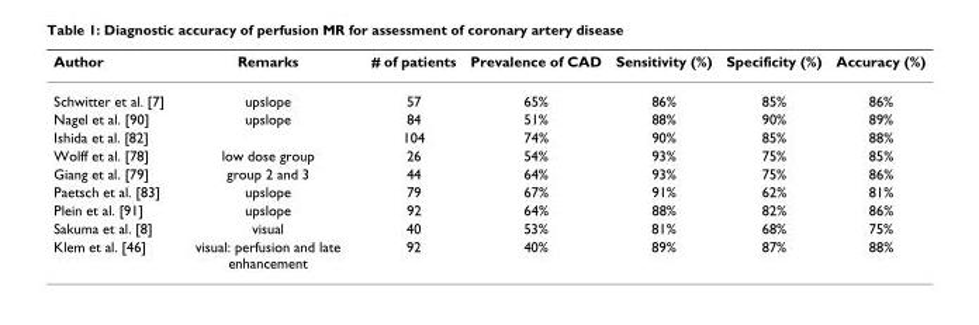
<table><thead><tr><td>Author</td><td>Remarks</td><td># of patients</td><td>Prevalence of CAD</td><td>Sensitivity (%)</td><td>Specificity (%)</td><td>Accuracy (%)</td></tr></thead><tbody><tr><td>Schwitter et al. [7]</td><td>upslope</td><td>57</td><td>65%</td><td>86%</td><td>85%</td><td>86%</td></tr><tr><td>Nagel et al. [90]</td><td>upslope</td><td>84</td><td>51%</td><td>88%</td><td>90%</td><td>89%</td></tr><tr><td>Ishida et al. [82]</td><td></td><td>104</td><td>74%</td><td>90%</td><td>85%</td><td>88%</td></tr><tr><td>Wolff et al. [78]</td><td>low dose group</td><td>26</td><td>54%</td><td>93%</td><td>75%</td><td>85%</td></tr><tr><td>Giang et al. [79]</td><td>group 2 and 3</td><td>44</td><td>64%</td><td>93%</td><td>75%</td><td>86%</td></tr><tr><td>Paetsch et al. [83]</td><td>upslope</td><td>79</td><td>67%</td><td>91%</td><td>62%</td><td>81%</td></tr><tr><td>Plein et al. [91]</td><td>upslope</td><td>92</td><td>64%</td><td>88%</td><td>82%</td><td>86%</td></tr><tr><td>Sakuma et al. [8]</td><td>visual</td><td>40</td><td>53%</td><td>81%</td><td>68%</td><td>75%</td></tr><tr><td>Klem et al. [46]</td><td>visual: perfusion and late enhancement</td><td>92</td><td>40%</td><td>89%</td><td>87%</td><td>88%</td></tr></tbody></table>